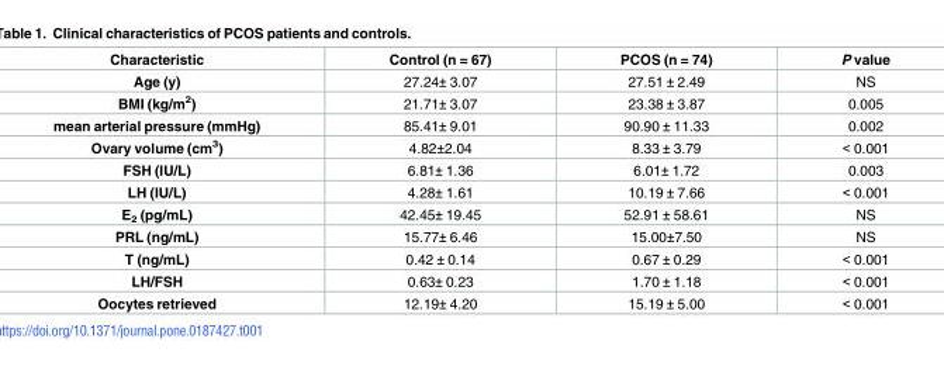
<table><thead><tr><td>Characteristic</td><td>Control (n = 67)</td><td>PCOS (n = 74)</td><td>P value</td></tr></thead><tbody><tr><td>Age (y)</td><td>27.24± 3.07</td><td>27.51 ± 2.49</td><td>NS</td></tr><tr><td>BMI (kg/m<sup>2</sup>)</td><td>21.71± 3.07</td><td>23.38 ± 3.87</td><td>0.005</td></tr><tr><td>mean arterial pressure (mmHg)</td><td>85.41± 9.01</td><td>90.90 ± 11.33</td><td>0.002</td></tr><tr><td>Ovary volume (cm<sup>3</sup>)</td><td>4.82±2.04</td><td>8.33 ± 3.79</td><td>&lt; 0.001</td></tr><tr><td>FSH (IU/L)</td><td>6.81± 1.36</td><td>6.01± 1.72</td><td>0.003</td></tr><tr><td>LH (IU/L)</td><td>4.28± 1.61</td><td>10.19 ± 7.66</td><td>&lt; 0.001</td></tr><tr><td>E<sub>2</sub> (pg/mL)</td><td>42.45± 19.45</td><td>52.91 ± 58.61</td><td>NS</td></tr><tr><td>PRL (ng/mL)</td><td>15.77± 6.46</td><td>15.00±7.50</td><td>NS</td></tr><tr><td>T (ng/mL)</td><td>0.42 ± 0.14</td><td>0.67 ± 0.29</td><td>&lt; 0.001</td></tr><tr><td>LH/FSH</td><td>0.63± 0.23</td><td>1.70 ± 1.18</td><td>&lt; 0.001</td></tr><tr><td>Oocytes retrieved</td><td>12.19± 4.20</td><td>15.19 ± 5.00</td><td>&lt; 0.001</td></tr></tbody></table>